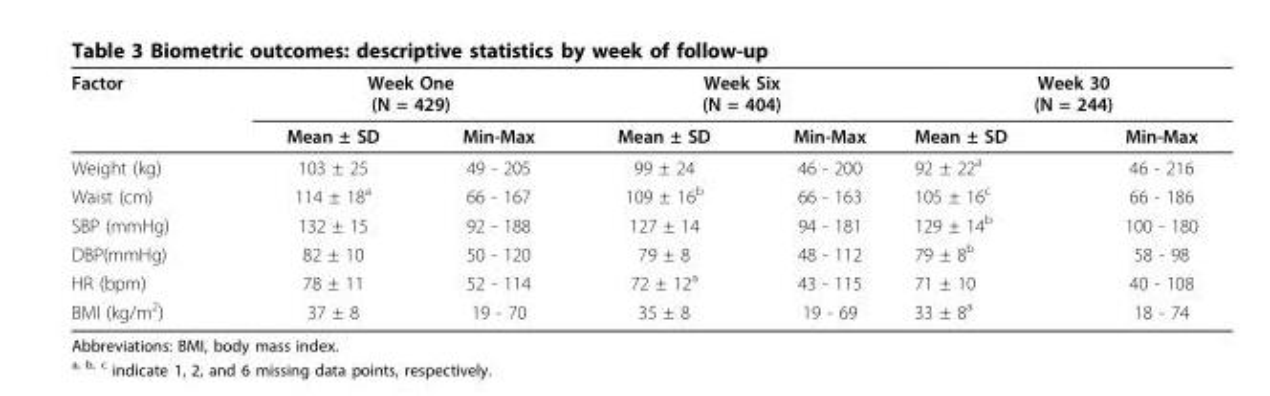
<table><thead><tr><td rowspan="2">Factor</td><td colspan="2">Week One (N = 429)</td><td colspan="2">Week Six (N = 404)</td><td colspan="2">Week 30 (N = 244)</td></tr><tr><td>Mean ± SD</td><td>Min-Max</td><td>Mean ± SD</td><td>Min-Max</td><td>Mean ± SD</td><td>Min-Max</td></tr></thead><tbody><tr><td>Weight (kg)</td><td>103 ± 25</td><td>49 - 205</td><td>99 ± 24</td><td>46 - 200</td><td>92 ± 22<sup>a</sup></td><td>46 - 216</td></tr><tr><td>Waist (cm)</td><td>114 ± 18<sup>a</sup></td><td>66 - 167</td><td>109 ± 16<sup>b</sup></td><td>66 - 163</td><td>105 ± 16<sup>c</sup></td><td>66 - 186</td></tr><tr><td>SBP (mmHg)</td><td>132 ± 15</td><td>92 - 188</td><td>127 ± 14</td><td>94 - 181</td><td>129 ± 14<sup>b</sup></td><td>100 - 180</td></tr><tr><td>DBP(mmHg)</td><td>82 ± 10</td><td>50 - 120</td><td>79 ± 8</td><td>48 - 112</td><td>79 ± 8<sup>b</sup></td><td>58 - 98</td></tr><tr><td>HR (bpm)</td><td>78 ± 11</td><td>52 - 114</td><td>72 ± 12<sup>a</sup></td><td>43 - 115</td><td>71 ± 10</td><td>40 - 108</td></tr><tr><td>BMI (kg/m<sup>2</sup>)</td><td>37 ± 8</td><td>19 - 70</td><td>35 ± 8</td><td>19 - 69</td><td>33 ± 8<sup>a</sup></td><td>18 - 74</td></tr></tbody></table>